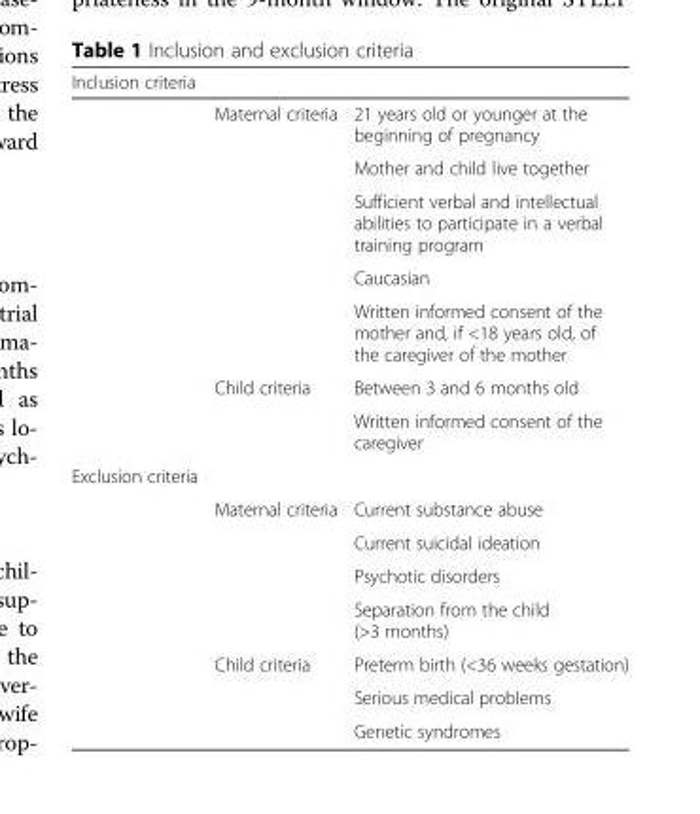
<table><thead><tr><td>Inclusion criteria</td><td></td><td></td></tr></thead><tbody><tr><td></td><td>Maternal criteria</td><td>21 years old or younger at the beginning of pregnancy</td></tr><tr><td></td><td></td><td>Mother and child live together</td></tr><tr><td></td><td></td><td>Sufficient verbal and intellectual abilities to participate in a verbal training program</td></tr><tr><td></td><td></td><td>Caucasian</td></tr><tr><td></td><td></td><td>Written informed consent of the mother and, if &lt;18 years old, of the caregiver of the mother</td></tr><tr><td></td><td>Child criteria</td><td>Between 3 and 6 months old</td></tr><tr><td></td><td></td><td>Written informed consent of the caregiver</td></tr><tr><td colspan="3">Exclusion criteria</td></tr><tr><td></td><td>Maternal criteria</td><td>Current substance abuse</td></tr><tr><td></td><td></td><td>Current suicidal ideation</td></tr><tr><td></td><td></td><td>Psychotic disorders</td></tr><tr><td></td><td></td><td>Separation from the child (&gt;3 months)</td></tr><tr><td></td><td>Child criteria</td><td>Preterm birth (&lt;36 weeks gestation)</td></tr><tr><td></td><td></td><td>Serious medical problems</td></tr><tr><td></td><td></td><td>Genetic syndromes</td></tr></tbody></table>